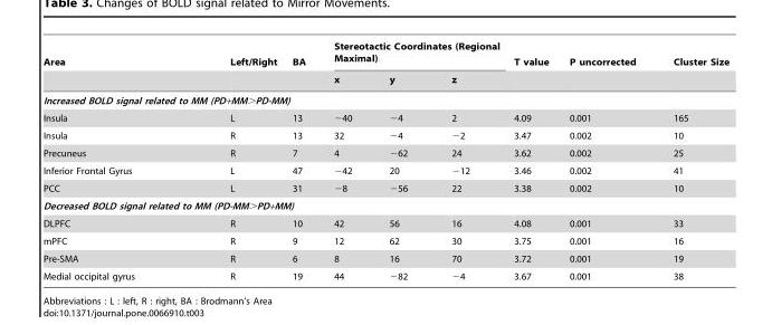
<table><thead><tr><td rowspan="2">Area</td><td rowspan="2">Left/Right</td><td rowspan="2">BA</td><td colspan="3">Stereotactic Coordinates (Regional Maximal)</td><td rowspan="2">T value</td><td rowspan="2">P uncorrected</td><td rowspan="2">Cluster Size</td></tr><tr><td>x</td><td>y</td><td>z</td></tr></thead><tbody><tr><td colspan="9">Increased BOLD signal related to MM (PD+MM&gt;PD-MM)</td></tr><tr><td>Insula</td><td>L</td><td>13</td><td>−40</td><td>−4</td><td>2</td><td>4.09</td><td>0.001</td><td>165</td></tr><tr><td>Insula</td><td>R</td><td>13</td><td>32</td><td>−4</td><td>−2</td><td>3.47</td><td>0.002</td><td>10</td></tr><tr><td>Precuneus</td><td>R</td><td>7</td><td>4</td><td>−62</td><td>24</td><td>3.62</td><td>0.002</td><td>25</td></tr><tr><td>Inferior Frontal Gyrus</td><td>L</td><td>47</td><td>−42</td><td>20</td><td>−12</td><td>3.46</td><td>0.002</td><td>41</td></tr><tr><td>PCC</td><td>L</td><td>31</td><td>−8</td><td>−56</td><td>22</td><td>3.38</td><td>0.002</td><td>10</td></tr><tr><td colspan="9">Decreased BOLD signal related to MM (PD-MM&gt;PD+MM)</td></tr><tr><td>DLPFC</td><td>R</td><td>10</td><td>42</td><td>56</td><td>16</td><td>4.08</td><td>0.001</td><td>33</td></tr><tr><td>mPFC</td><td>R</td><td>9</td><td>12</td><td>62</td><td>30</td><td>3.75</td><td>0.001</td><td>16</td></tr><tr><td>Pre-SMA</td><td>R</td><td>6</td><td>8</td><td>16</td><td>70</td><td>3.72</td><td>0.001</td><td>19</td></tr><tr><td>Medial occipital gyrus</td><td>R</td><td>19</td><td>44</td><td>−82</td><td>−4</td><td>3.67</td><td>0.001</td><td>38</td></tr></tbody></table>